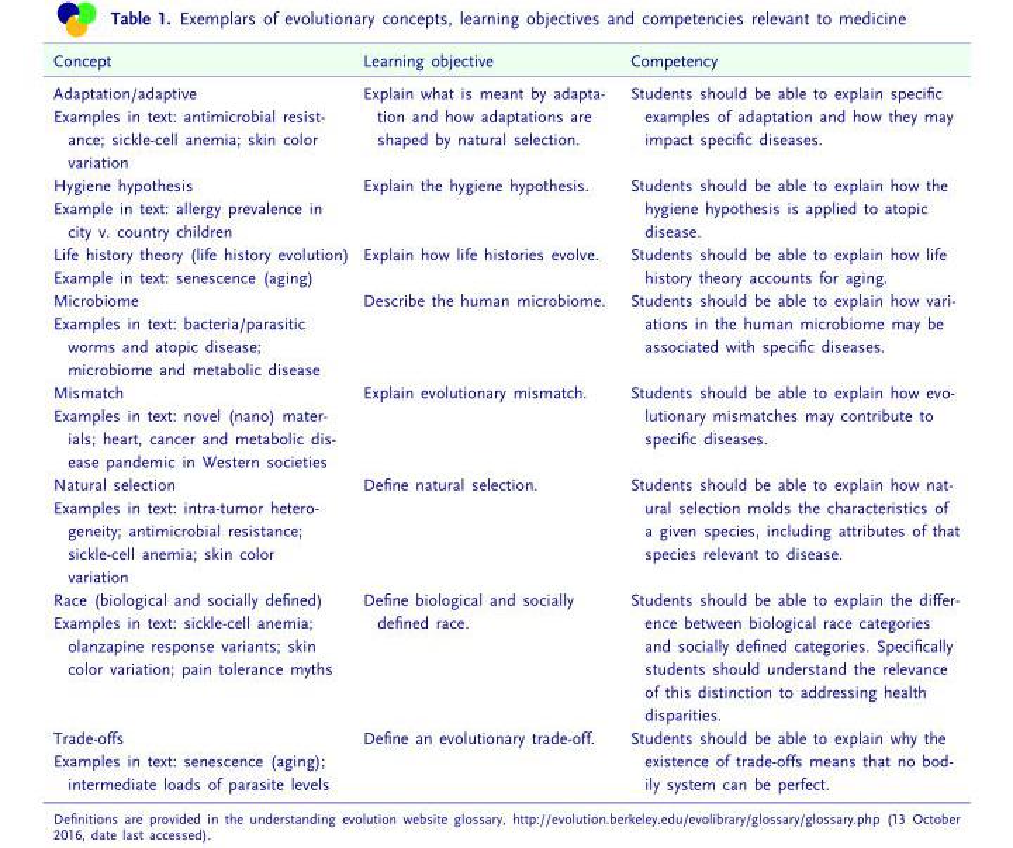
<table><thead><tr><td>Concept</td><td>Learning objective</td><td>Competency</td></tr></thead><tbody><tr><td>Adaptation/adaptive</td><td rowspan="2">Explain what is meant by adapta- tion and how adaptations are shaped by natural selection.</td><td rowspan="2">Students should be able to explain specific examples of adaptation and how they may impact specific diseases.</td></tr><tr><td>Examples in text: antimicrobial resist- ance; sickle-cell anemia; skin color variation</td></tr><tr><td>Hygiene hypothesis</td><td rowspan="2">Explain the hygiene hypothesis.</td><td rowspan="2">Students should be able to explain how the hygiene hypothesis is applied to atopic disease.</td></tr><tr><td>Example in text: allergy prevalence in city v. country children</td></tr><tr><td>Life history theory (life history evolution)</td><td rowspan="2">Explain how life histories evolve.</td><td rowspan="2">Students should be able to explain how life history theory accounts for aging.</td></tr><tr><td>Example in text: senescence (aging)</td></tr><tr><td>Microbiome</td><td rowspan="2">Describe the human microbiome.</td><td rowspan="2">Students should be able to explain how vari- ations in the human microbiome may be associated with specific diseases.</td></tr><tr><td>Examples in text: bacteria/parasitic worms and atopic disease; microbiome and metabolic disease</td></tr><tr><td>Mismatch</td><td rowspan="2">Explain evolutionary mismatch.</td><td rowspan="2">Students should be able to explain how evo- lutionary mismatches may contribute to specific diseases.</td></tr><tr><td>Examples in text: novel (nano) mater- ials; heart, cancer and metabolic dis- ease pandemic in Western societies</td></tr><tr><td>Natural selection</td><td rowspan="2">Define natural selection.</td><td rowspan="2">Students should be able to explain how nat- ural selection molds the characteristics of a given species, including attributes of that species relevant to disease.</td></tr><tr><td>Examples in text: intra-tumor hetero- geneity; antimicrobial resistance; sickle-cell anemia; skin color variation</td></tr><tr><td>Race (biological and socially defined)</td><td rowspan="2">Define biological and socially defined race.</td><td rowspan="2">Students should be able to explain the differ- ence between biological race categories and socially defined categories. Specifically students should understand the relevance of this distinction to addressing health disparities.</td></tr><tr><td>Examples in text: sickle-cell anemia; olanzapine response variants; skin color variation; pain tolerance myths</td></tr><tr><td>Trade-offs</td><td rowspan="2">Define an evolutionary trade-off.</td><td rowspan="2">Students should be able to explain why the existence of trade-offs means that no bod- ily system can be perfect.</td></tr><tr><td>Examples in text: senescence (aging); intermediate loads of parasite levels</td></tr></tbody></table>